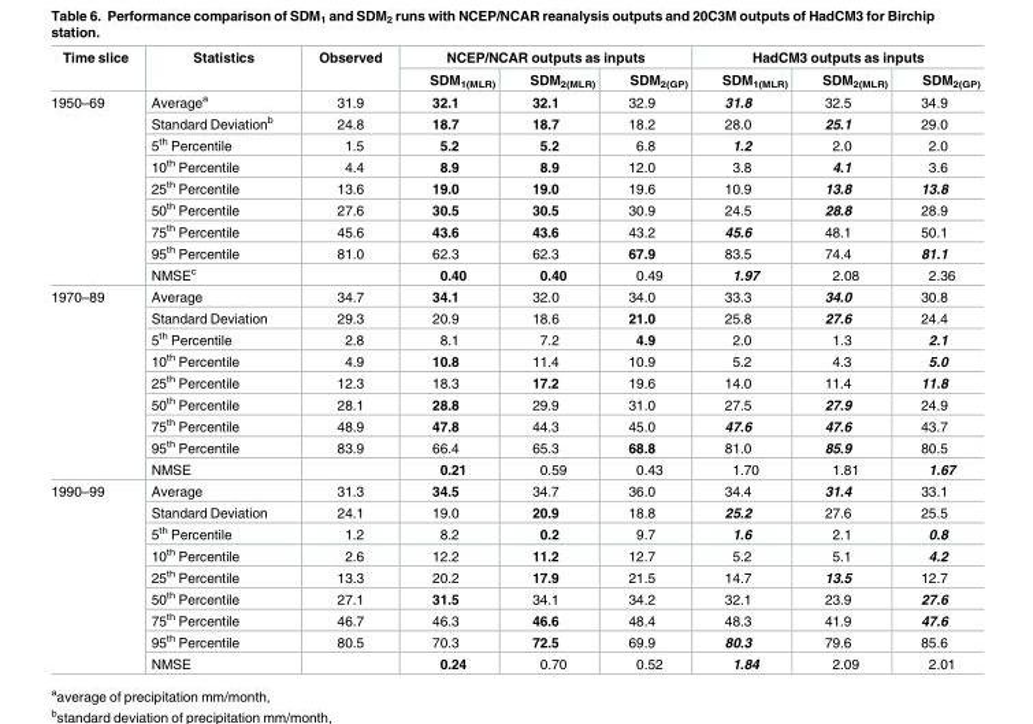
<table><thead><tr><td rowspan="2">Time slice</td><td rowspan="2">Statistics</td><td rowspan="2">Observed</td><td colspan="3">NCEP/NCAR outputs as inputs</td><td colspan="3">HadCM3 outputs as inputs</td></tr><tr><td>SDM<sub>1(MLR)</sub></td><td>SDM<sub>2(MLR)</sub></td><td>SDM<sub>2(GP)</sub></td><td>SDM<sub>1(MLR)</sub></td><td>SDM<sub>2(MLR)</sub></td><td>SDM<sub>2(GP)</sub></td></tr></thead><tbody><tr><td rowspan="9">1950–69</td><td>Average<sup>a</sup></td><td>31.9</td><td>32.1</td><td>32.1</td><td>32.9</td><td>31.8</td><td>32.5</td><td>34.9</td></tr><tr><td>Standard Deviation<sup>b</sup></td><td>24.8</td><td>18.7</td><td>18.7</td><td>18.2</td><td>28.0</td><td>25.1</td><td>29.0</td></tr><tr><td>5<sup>th</sup> Percentile</td><td>1.5</td><td>5.2</td><td>5.2</td><td>6.8</td><td>1.2</td><td>2.0</td><td>2.0</td></tr><tr><td>10<sup>th</sup> Percentile</td><td>4.4</td><td>8.9</td><td>8.9</td><td>12.0</td><td>3.8</td><td>4.1</td><td>3.6</td></tr><tr><td>25<sup>th</sup> Percentile</td><td>13.6</td><td>19.0</td><td>19.0</td><td>19.6</td><td>10.9</td><td>13.8</td><td>13.8</td></tr><tr><td>50<sup>th</sup> Percentile</td><td>27.6</td><td>30.5</td><td>30.5</td><td>30.9</td><td>24.5</td><td>28.8</td><td>28.9</td></tr><tr><td>75<sup>th</sup> Percentile</td><td>45.6</td><td>43.6</td><td>43.6</td><td>43.2</td><td>45.6</td><td>48.1</td><td>50.1</td></tr><tr><td>95<sup>th</sup> Percentile</td><td>81.0</td><td>62.3</td><td>62.3</td><td>67.9</td><td>83.5</td><td>74.4</td><td>81.1</td></tr><tr><td>NMSE<sup>c</sup></td><td></td><td>0.40</td><td>0.40</td><td>0.49</td><td>1.97</td><td>2.08</td><td>2.36</td></tr><tr><td rowspan="9">1970–89</td><td>Average</td><td>34.7</td><td>34.1</td><td>32.0</td><td>34.0</td><td>33.3</td><td>34.0</td><td>30.8</td></tr><tr><td>Standard Deviation</td><td>29.3</td><td>20.9</td><td>18.6</td><td>21.0</td><td>25.8</td><td>27.6</td><td>24.4</td></tr><tr><td>5<sup>th</sup> Percentile</td><td>2.8</td><td>8.1</td><td>7.2</td><td>4.9</td><td>2.0</td><td>1.3</td><td>2.1</td></tr><tr><td>10<sup>th</sup> Percentile</td><td>4.9</td><td>10.8</td><td>11.4</td><td>10.9</td><td>5.2</td><td>4.3</td><td>5.0</td></tr><tr><td>25<sup>th</sup> Percentile</td><td>12.3</td><td>18.3</td><td>17.2</td><td>19.6</td><td>14.0</td><td>11.4</td><td>11.8</td></tr><tr><td>50<sup>th</sup> Percentile</td><td>28.1</td><td>28.8</td><td>29.9</td><td>31.0</td><td>27.5</td><td>27.9</td><td>24.9</td></tr><tr><td>75<sup>th</sup> Percentile</td><td>48.9</td><td>47.8</td><td>44.3</td><td>45.0</td><td>47.6</td><td>47.6</td><td>43.7</td></tr><tr><td>95<sup>th</sup> Percentile</td><td>83.9</td><td>66.4</td><td>65.3</td><td>68.8</td><td>81.0</td><td>85.9</td><td>80.5</td></tr><tr><td>NMSE</td><td></td><td>0.21</td><td>0.59</td><td>0.43</td><td>1.70</td><td>1.81</td><td>1.67</td></tr><tr><td rowspan="9">1990–99</td><td>Average</td><td>31.3</td><td>34.5</td><td>34.7</td><td>36.0</td><td>34.4</td><td>31.4</td><td>33.1</td></tr><tr><td>Standard Deviation</td><td>24.1</td><td>19.0</td><td>20.9</td><td>18.8</td><td>25.2</td><td>27.6</td><td>25.5</td></tr><tr><td>5<sup>th</sup> Percentile</td><td>1.2</td><td>8.2</td><td>0.2</td><td>9.7</td><td>1.6</td><td>2.1</td><td>0.8</td></tr><tr><td>10<sup>th</sup> Percentile</td><td>2.6</td><td>12.2</td><td>11.2</td><td>12.7</td><td>5.2</td><td>5.1</td><td>4.2</td></tr><tr><td>25<sup>th</sup> Percentile</td><td>13.3</td><td>20.2</td><td>17.9</td><td>21.5</td><td>14.7</td><td>13.5</td><td>12.7</td></tr><tr><td>50<sup>th</sup> Percentile</td><td>27.1</td><td>31.5</td><td>34.1</td><td>34.2</td><td>32.1</td><td>23.9</td><td>27.6</td></tr><tr><td>75<sup>th</sup> Percentile</td><td>46.7</td><td>46.3</td><td>46.6</td><td>48.4</td><td>48.3</td><td>41.9</td><td>47.6</td></tr><tr><td>95<sup>th</sup> Percentile</td><td>80.5</td><td>70.3</td><td>72.5</td><td>69.9</td><td>80.3</td><td>79.6</td><td>85.6</td></tr><tr><td>NMSE</td><td></td><td>0.24</td><td>0.70</td><td>0.52</td><td>1.84</td><td>2.09</td><td>2.01</td></tr></tbody></table>